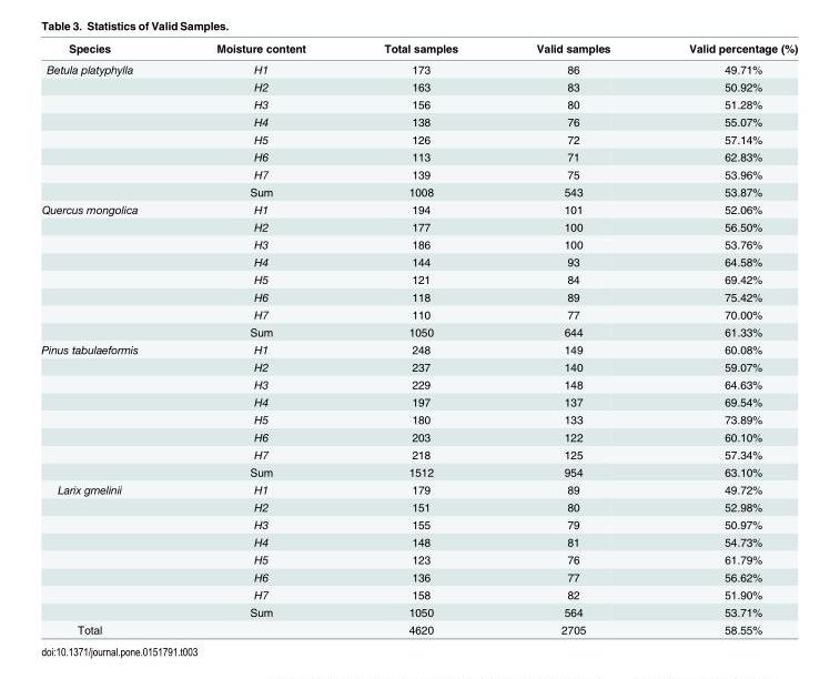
<table><thead><tr><td>Species</td><td>Moisture content</td><td>Total samples</td><td>Valid samples</td><td>Valid percentage (%)</td></tr></thead><tbody><tr><td rowspan="8">Betula platyphylla</td><td>H1</td><td>173</td><td>86</td><td>49.71%</td></tr><tr><td>H2</td><td>163</td><td>83</td><td>50.92%</td></tr><tr><td>H3</td><td>156</td><td>80</td><td>51.28%</td></tr><tr><td>H4</td><td>138</td><td>76</td><td>55.07%</td></tr><tr><td>H5</td><td>126</td><td>72</td><td>57.14%</td></tr><tr><td>H6</td><td>113</td><td>71</td><td>62.83%</td></tr><tr><td>H7</td><td>139</td><td>75</td><td>53.96%</td></tr><tr><td>Sum</td><td>1008</td><td>543</td><td>53.87%</td></tr><tr><td rowspan="8">Quercus mongolica</td><td>H1</td><td>194</td><td>101</td><td>52.06%</td></tr><tr><td>H2</td><td>177</td><td>100</td><td>56.50%</td></tr><tr><td>H3</td><td>186</td><td>100</td><td>53.76%</td></tr><tr><td>H4</td><td>144</td><td>93</td><td>64.58%</td></tr><tr><td>H5</td><td>121</td><td>84</td><td>69.42%</td></tr><tr><td>H6</td><td>118</td><td>89</td><td>75.42%</td></tr><tr><td>H7</td><td>110</td><td>77</td><td>70.00%</td></tr><tr><td>Sum</td><td>1050</td><td>644</td><td>61.33%</td></tr><tr><td rowspan="8">Pinus tabulaeformis</td><td>H1</td><td>248</td><td>149</td><td>60.08%</td></tr><tr><td>H2</td><td>237</td><td>140</td><td>59.07%</td></tr><tr><td>H3</td><td>229</td><td>148</td><td>64.63%</td></tr><tr><td>H4</td><td>197</td><td>137</td><td>69.54%</td></tr><tr><td>H5</td><td>180</td><td>133</td><td>73.89%</td></tr><tr><td>H6</td><td>203</td><td>122</td><td>60.10%</td></tr><tr><td>H7</td><td>218</td><td>125</td><td>57.34%</td></tr><tr><td>Sum</td><td>1512</td><td>954</td><td>63.10%</td></tr><tr><td rowspan="8">Larix gmelinii</td><td>H1</td><td>179</td><td>89</td><td>49.72%</td></tr><tr><td>H2</td><td>151</td><td>80</td><td>52.98%</td></tr><tr><td>H3</td><td>155</td><td>79</td><td>50.97%</td></tr><tr><td>H4</td><td>148</td><td>81</td><td>54.73%</td></tr><tr><td>H5</td><td>123</td><td>76</td><td>61.79%</td></tr><tr><td>H6</td><td>136</td><td>77</td><td>56.62%</td></tr><tr><td>H7</td><td>158</td><td>82</td><td>51.90%</td></tr><tr><td>Sum</td><td>1050</td><td>564</td><td>53.71%</td></tr><tr><td>Total</td><td></td><td>4620</td><td>2705</td><td>58.55%</td></tr></tbody></table>